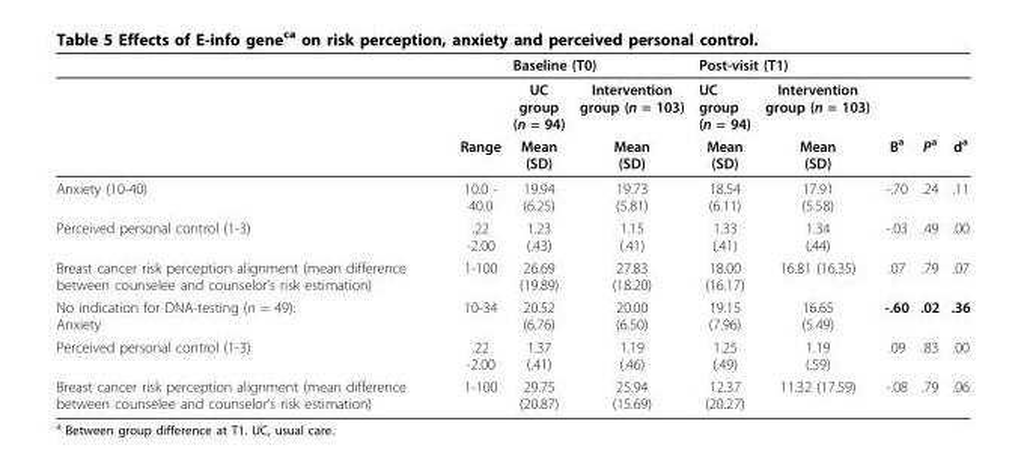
<table><thead><tr><td rowspan="2"></td><td rowspan="2"></td><td colspan="2">Baseline (T0)</td><td colspan="2">Post-visit (T1)</td><td rowspan="2"></td><td rowspan="2"></td><td rowspan="2"></td></tr><tr><td>UC group (n = 94)</td><td>Intervention group (n = 103)</td><td>UC group (n = 94)</td><td>Intervention group (n = 103)</td></tr></thead><tbody><tr><td></td><td>Range</td><td>Mean (SD)</td><td>Mean (SD)</td><td>Mean (SD)</td><td>Mean (SD)</td><td>Ba</td><td>Pa</td><td>da</td></tr><tr><td>Anxiety (10-40)</td><td>10.0 - 40.0</td><td>19.94 (6.25)</td><td>19.73 (5.81)</td><td>18.54 (6.11)</td><td>17.91 (5.58)</td><td>-.70</td><td>.24</td><td>.11</td></tr><tr><td>Perceived personal control (1-3)</td><td>.22 -2.00</td><td>1.23 (.43)</td><td>1.15 (.41)</td><td>1.33 (.41)</td><td>1.34 (.44)</td><td>-.03</td><td>.49</td><td>.00</td></tr><tr><td>Breast cancer risk perception alignment (mean difference between counselee and counselor’s risk estimation)</td><td>1-100</td><td>26.69 (19.89)</td><td>27.83 (18.20)</td><td>18.00 (16.17)</td><td>16.81 (16.35)</td><td>.07</td><td>.79</td><td>.07</td></tr><tr><td>No indication for DNA-testing (n = 49): Anxiety</td><td>10-34</td><td>20.52 (6.76)</td><td>20.00 (6.50)</td><td>19.15 (7.96)</td><td>16.65 (5.49)</td><td>-.60</td><td>.02</td><td>.36</td></tr><tr><td>Perceived personal control (1-3)</td><td>.22 -2.00</td><td>1.37 (.41)</td><td>1.19 (.46)</td><td>1.25 (.49)</td><td>1.19 (.59)</td><td>.09</td><td>.83</td><td>.00</td></tr><tr><td>Breast cancer risk perception alignment (mean difference between counselee and counselor’s risk estimation)</td><td>1-100</td><td>29.75 (20.87)</td><td>25.94 (15.69)</td><td>12.37 (20.27)</td><td>11.32 (17.59)</td><td>-.08</td><td>.79</td><td>.06</td></tr></tbody></table>